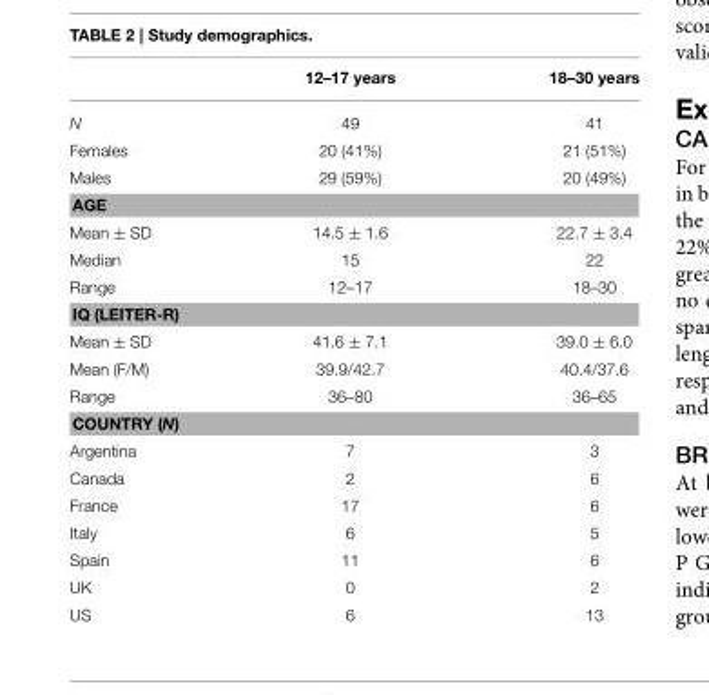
<table><thead><tr><td></td><td>12–17 years</td><td>18–30 years</td></tr></thead><tbody><tr><td>N</td><td>49</td><td>41</td></tr><tr><td>Females</td><td>20 (41%)</td><td>21 (51%)</td></tr><tr><td>Males</td><td>29 (59%)</td><td>20 (49%)</td></tr><tr><td colspan="3">AGE</td></tr><tr><td>Mean ± SD</td><td>14.5 ± 1.6</td><td>22.7 ± 3.4</td></tr><tr><td>Median</td><td>15</td><td>22</td></tr><tr><td>Range</td><td>12–17</td><td>18–30</td></tr><tr><td colspan="3">IQ (LEITER-R)</td></tr><tr><td>Mean ± SD</td><td>41.6 ± 7.1</td><td>39.0 ± 6.0</td></tr><tr><td>Mean (F/M)</td><td>39.9/42.7</td><td>40.4/37.6</td></tr><tr><td>Range</td><td>36–80</td><td>36–65</td></tr><tr><td colspan="3">COUNTRY (N)</td></tr><tr><td>Argentina</td><td>7</td><td>3</td></tr><tr><td>Canada</td><td>2</td><td>6</td></tr><tr><td>France</td><td>17</td><td>6</td></tr><tr><td>Italy</td><td>6</td><td>5</td></tr><tr><td>Spain</td><td>11</td><td>6</td></tr><tr><td>UK</td><td>0</td><td>2</td></tr><tr><td>US</td><td>6</td><td>13</td></tr></tbody></table>